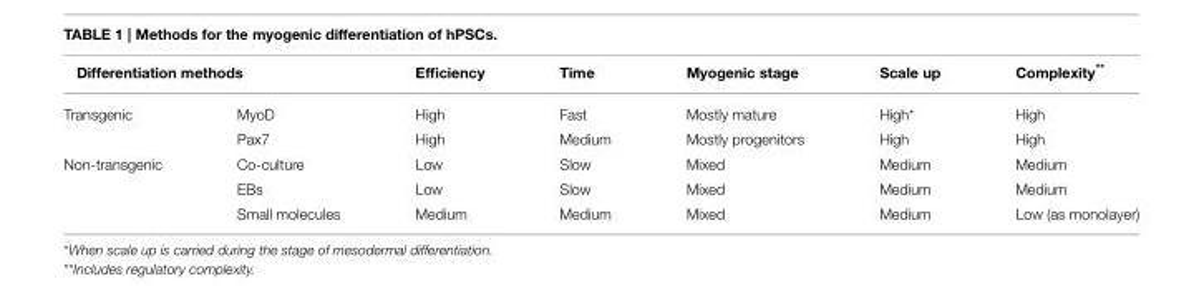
<table><thead><tr><td colspan="2">Differentiation methods</td><td rowspan="2">Efficiency High</td><td rowspan="2">Time Fast</td><td rowspan="2">Myogenic stage Mostly mature</td><td rowspan="2">Scale up High*</td><td rowspan="2">Complexity** High</td></tr><tr><td>Transgenic</td><td>MyoD</td></tr></thead><tbody><tr><td></td><td>Pax7</td><td>High</td><td>Medium</td><td>Mostly progenitors</td><td>High</td><td>High</td></tr><tr><td rowspan="3">Non-transgenic</td><td>Co-culture</td><td>Low</td><td>Slow</td><td>Mixed</td><td>Medium</td><td>Medium</td></tr><tr><td>EBs</td><td>Low</td><td>Slow</td><td>Mixed</td><td>Medium</td><td>Medium</td></tr><tr><td>Small molecules</td><td>Medium</td><td>Medium</td><td>Mixed</td><td>Medium</td><td>Low (as monolayer)</td></tr></tbody></table>